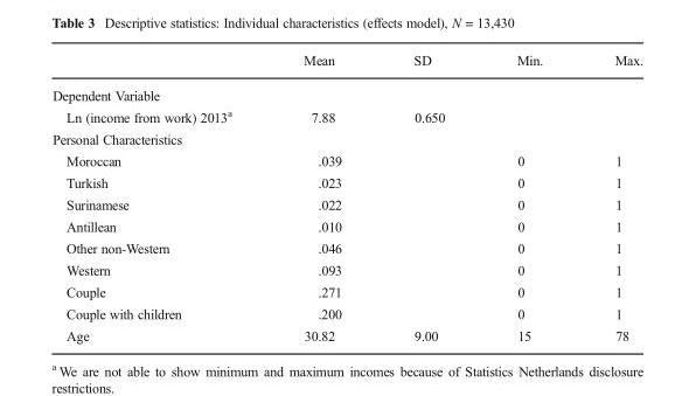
<table><thead><tr><td></td><td>Mean</td><td>SD</td><td>Min.</td><td>Max.</td></tr></thead><tbody><tr><td colspan="5">Dependent Variable</td></tr><tr><td>Ln (income from work) 2013<sup>a</sup></td><td>7.88</td><td>0.650</td><td></td><td></td></tr><tr><td colspan="5">Personal Characteristics</td></tr><tr><td>Moroccan</td><td>.039</td><td></td><td>0</td><td>1</td></tr><tr><td>Turkish</td><td>.023</td><td></td><td>0</td><td>1</td></tr><tr><td>Surinamese</td><td>.022</td><td></td><td>0</td><td>1</td></tr><tr><td>Antillean</td><td>.010</td><td></td><td>0</td><td>1</td></tr><tr><td>Other non-Western</td><td>.046</td><td></td><td>0</td><td>1</td></tr><tr><td>Western</td><td>.093</td><td></td><td>0</td><td>1</td></tr><tr><td>Couple</td><td>.271</td><td></td><td>0</td><td>1</td></tr><tr><td>Couple with children</td><td>.200</td><td></td><td>0</td><td>1</td></tr><tr><td>Age</td><td>30.82</td><td>9.00</td><td>15</td><td>78</td></tr></tbody></table>